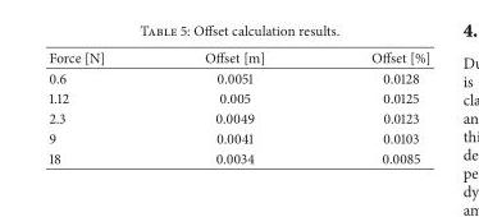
<table><thead><tr><td>Force [N]</td><td>Offset [m]</td><td>Offset [%]</td></tr></thead><tbody><tr><td>0.6</td><td>0.0051</td><td>0.0128</td></tr><tr><td>1.12</td><td>0.005</td><td>0.0125</td></tr><tr><td>2.3</td><td>0.0049</td><td>0.0123</td></tr><tr><td>9</td><td>0.0041</td><td>0.0103</td></tr><tr><td>18</td><td>0.0034</td><td>0.0085</td></tr></tbody></table>